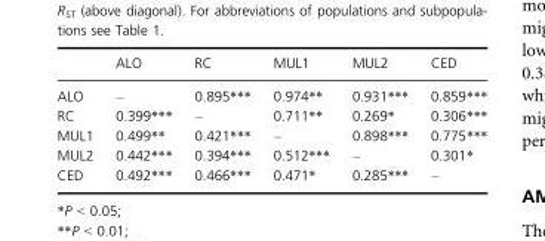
<table><thead><tr><td></td><td>ALO</td><td>RC</td><td>MUL1</td><td>MUL2</td><td>CED</td></tr></thead><tbody><tr><td>ALO</td><td>–</td><td>0.895***</td><td>0.974**</td><td>0.931***</td><td>0.859***</td></tr><tr><td>RC</td><td>0.399***</td><td>–</td><td>0.711**</td><td>0.269*</td><td>0.306***</td></tr><tr><td>MUL1</td><td>0.499**</td><td>0.421***</td><td>–</td><td>0.898***</td><td>0.775***</td></tr><tr><td>MUL2</td><td>0.442***</td><td>0.394***</td><td>0.512***</td><td>–</td><td>0.301*</td></tr><tr><td>CED</td><td>0.492***</td><td>0.466***</td><td>0.471*</td><td>0.285***</td><td>–</td></tr></tbody></table>